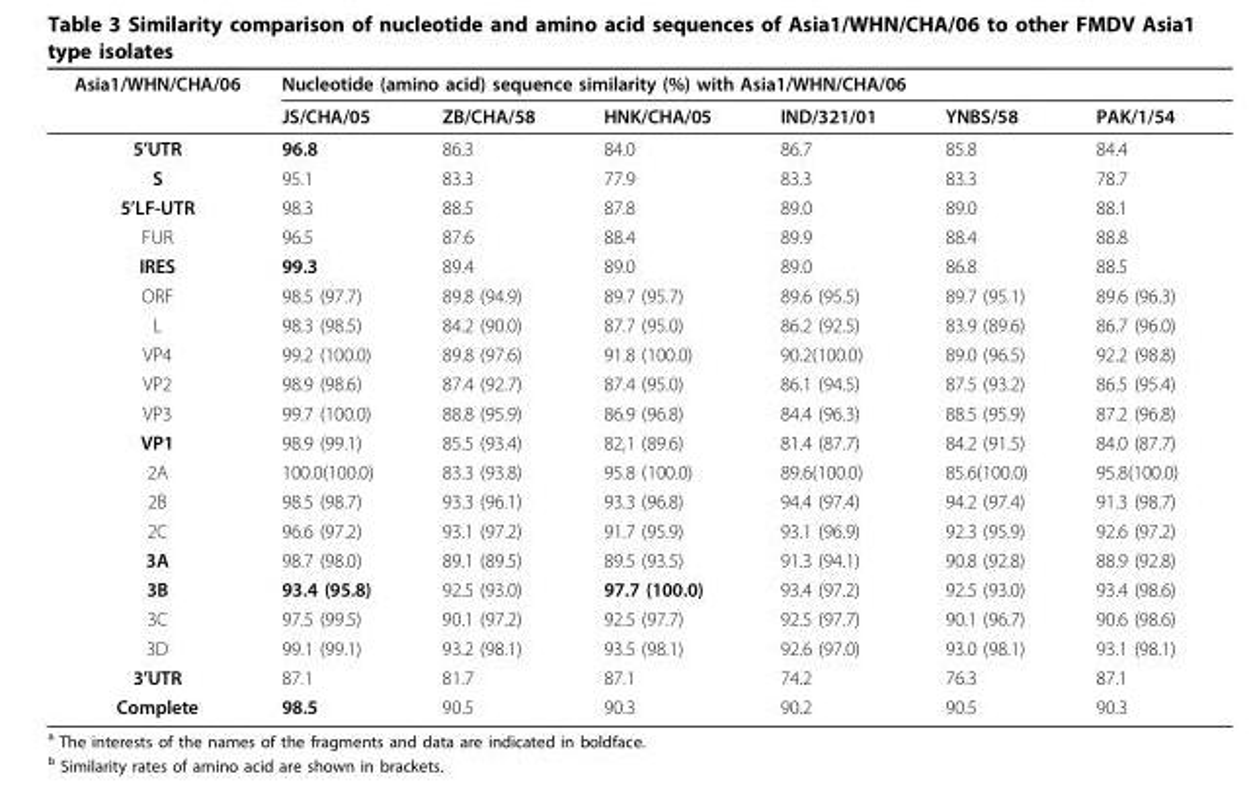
<table><thead><tr><td rowspan="2">Asia1/WHN/CHA/06</td><td colspan="6">Nucleotide (amino acid) sequence similarity (%) with Asia1/WHN/CHA/06</td></tr><tr><td>JS/CHA/05</td><td>ZB/CHA/58</td><td>HNK/CHA/05</td><td>IND/321/01</td><td>YNBS/58</td><td>PAK/1/54</td></tr></thead><tbody><tr><td>5’UTR</td><td>96.8</td><td>86.3</td><td>84.0</td><td>86.7</td><td>85.8</td><td>84.4</td></tr><tr><td>S</td><td>95.1</td><td>83.3</td><td>77.9</td><td>83.3</td><td>83.3</td><td>78.7</td></tr><tr><td>5’LF-UTR</td><td>98.3</td><td>88.5</td><td>87.8</td><td>89.0</td><td>89.0</td><td>88.1</td></tr><tr><td>FUR</td><td>96.5</td><td>87.6</td><td>88.4</td><td>89.9</td><td>88.4</td><td>88.8</td></tr><tr><td>IRES</td><td>99.3</td><td>89.4</td><td>89.0</td><td>89.0</td><td>86.8</td><td>88.5</td></tr><tr><td>ORF</td><td>98.5 (97.7)</td><td>89.8 (94.9)</td><td>89.7 (95.7)</td><td>89.6 (95.5)</td><td>89.7 (95.1)</td><td>89.6 (96.3)</td></tr><tr><td>L</td><td>98.3 (98.5)</td><td>84.2 (90.0)</td><td>87.7 (95.0)</td><td>86.2 (92.5)</td><td>83.9 (89.6)</td><td>86.7 (96.0)</td></tr><tr><td>VP4</td><td>99.2 (100.0)</td><td>89.8 (97.6)</td><td>91.8 (100.0)</td><td>90.2(100.0)</td><td>89.0 (96.5)</td><td>92.2 (98.8)</td></tr><tr><td>VP2</td><td>98.9 (98.6)</td><td>87.4 (92.7)</td><td>87.4 (95.0)</td><td>86.1 (94.5)</td><td>87.5 (93.2)</td><td>86.5 (95.4)</td></tr><tr><td>VP3</td><td>99.7 (100.0)</td><td>88.8 (95.9)</td><td>86.9 (96.8)</td><td>84.4 (96.3)</td><td>88.5 (95.9)</td><td>87.2 (96.8)</td></tr><tr><td>VP1</td><td>98.9 (99.1)</td><td>85.5 (93.4)</td><td>82,1 (89.6)</td><td>81.4 (87.7)</td><td>84.2 (91.5)</td><td>84.0 (87.7)</td></tr><tr><td>2A</td><td>100.0(100.0)</td><td>83.3 (93.8)</td><td>95.8 (100.0)</td><td>89.6(100.0)</td><td>85.6(100.0)</td><td>95.8(100.0)</td></tr><tr><td>2B</td><td>98.5 (98.7)</td><td>93.3 (96.1)</td><td>93.3 (96.8)</td><td>94.4 (97.4)</td><td>94.2 (97.4)</td><td>91.3 (98.7)</td></tr><tr><td>2C</td><td>96.6 (97.2)</td><td>93.1 (97.2)</td><td>91.7 (95.9)</td><td>93.1 (96.9)</td><td>92.3 (95.9)</td><td>92.6 (97.2)</td></tr><tr><td>3A</td><td>98.7 (98.0)</td><td>89.1 (89.5)</td><td>89.5 (93.5)</td><td>91.3 (94.1)</td><td>90.8 (92.8)</td><td>88.9 (92.8)</td></tr><tr><td>3B</td><td>93.4 (95.8)</td><td>92.5 (93.0)</td><td>97.7 (100.0)</td><td>93.4 (97.2)</td><td>92.5 (93.0)</td><td>93.4 (98.6)</td></tr><tr><td>3C</td><td>97.5 (99.5)</td><td>90.1 (97.2)</td><td>92.5 (97.7)</td><td>92.5 (97.7)</td><td>90.1 (96.7)</td><td>90.6 (98.6)</td></tr><tr><td>3D</td><td>99.1 (99.1)</td><td>93.2 (98.1)</td><td>93.5 (98.1)</td><td>92.6 (97.0)</td><td>93.0 (98.1)</td><td>93.1 (98.1)</td></tr><tr><td>3’UTR</td><td>87.1</td><td>81.7</td><td>87.1</td><td>74.2</td><td>76.3</td><td>87.1</td></tr><tr><td>Complete</td><td>98.5</td><td>90.5</td><td>90.3</td><td>90.2</td><td>90.5</td><td>90.3</td></tr></tbody></table>